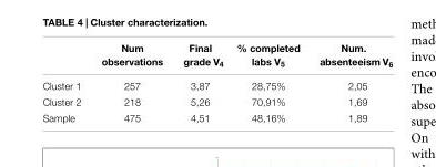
<table><thead><tr><td></td><td>Num observations</td><td>Final grade V<sub>4</sub></td><td>% completed labs V<sub>5</sub></td><td>Num. absenteeism V<sub>6</sub></td></tr></thead><tbody><tr><td>Cluster 1</td><td>257</td><td>3,87</td><td>28,75%</td><td>2,05</td></tr><tr><td>Cluster 2</td><td>218</td><td>5,26</td><td>70,91%</td><td>1,69</td></tr><tr><td>Sample</td><td>475</td><td>4,51</td><td>48,16%</td><td>1,89</td></tr></tbody></table>